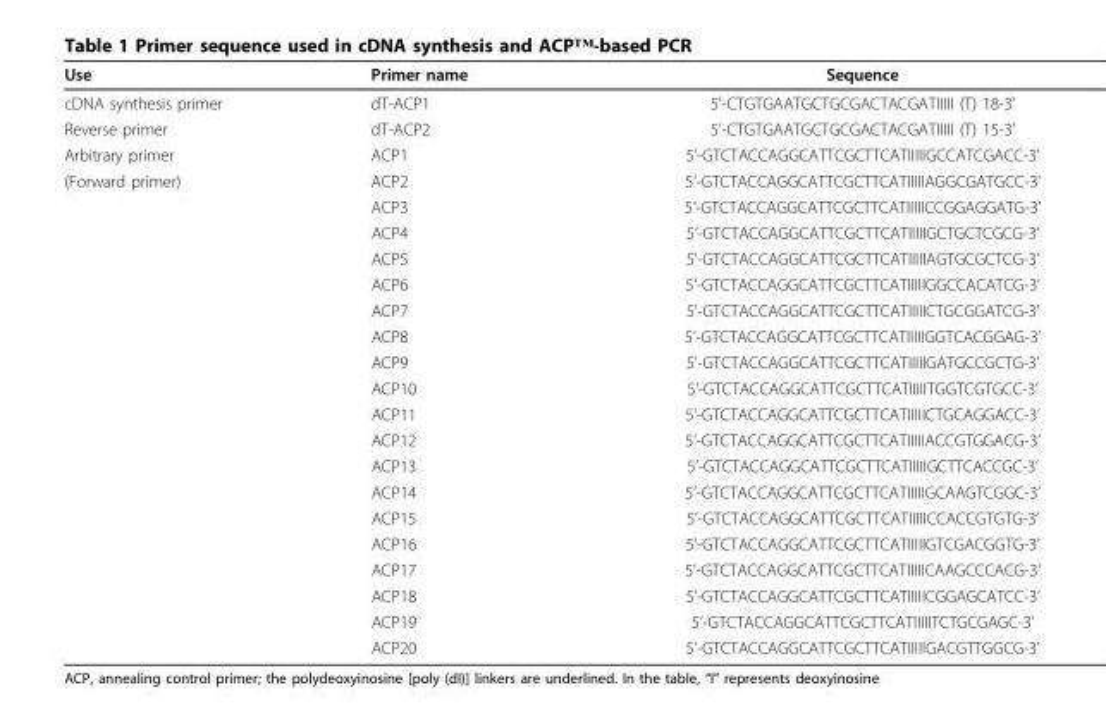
<table><thead><tr><td>Use</td><td>Primer name</td><td>Sequence</td></tr></thead><tbody><tr><td>cDNA synthesis primer</td><td>dT-ACP1</td><td>5’-CTGTGAATGCTGCGACTACGATIIIII (T) 18-3’</td></tr><tr><td>Reverse primer</td><td>dT-ACP2</td><td>5’-CTGTGAATGCTGCGACTACGATIIIII (T) 15-3’</td></tr><tr><td>Arbitrary primer</td><td>ACP1</td><td>5’-GTCTACCAGGCATTCGCTTCATIIIIIGCCATCGACC-3’</td></tr><tr><td rowspan="19">(Forward primer)</td><td>ACP2</td><td>5’-GTCTACCAGGCATTCGCTTCATIIIIIAGGCGATGCC-3’</td></tr><tr><td>ACP3</td><td>5’-GTCTACCAGGCATTCGCTTCATIIIIICCGGAGGATG-3’</td></tr><tr><td>ACP4</td><td>5’-GTCTACCAGGCATTCGCTTCATIIIIIGCTGCTCGCG-3’</td></tr><tr><td>ACP5</td><td>5’-GTCTACCAGGCATTCGCTTCATIIIIIAGTGCGCTCG-3’</td></tr><tr><td>ACP6</td><td>5’-GTCTACCAGGCATTCGCTTCATIIIIIGGCCACATCG-3’</td></tr><tr><td>ACP7</td><td>5’-GTCTACCAGGCATTCGCTTCATIIIIICTGCGGATCG-3’</td></tr><tr><td>ACP8</td><td>5’-GTCTACCAGGCATTCGCTTCATIIIIIGGTCACGGAG-3’</td></tr><tr><td>ACP9</td><td>5’-GTCTACCAGGCATTCGCTTCATIIIIIGATGCCGCTG-3’</td></tr><tr><td>ACP10</td><td>5’-GTCTACCAGGCATTCGCTTCATIIIIITGGTCGTGCC-3’</td></tr><tr><td>ACP11</td><td>5’-GTCTACCAGGCATTCGCTTCATIIIIICTGCAGGACC-3’</td></tr><tr><td>ACP12</td><td>5’-GTCTACCAGGCATTCGCTTCATIIIIIACCGTGGACG-3’</td></tr><tr><td>ACP13</td><td>5’-GTCTACCAGGCATTCGCTTCATIIIIIGCTTCACCGC-3’</td></tr><tr><td>ACP14</td><td>5’-GTCTACCAGGCATTCGCTTCATIIIIIGCAAGTCGGC-3’</td></tr><tr><td>ACP15</td><td>5’-GTCTACCAGGCATTCGCTTCATIIIIICCACCGTGTG-3’</td></tr><tr><td>ACP16</td><td>5’-GTCTACCAGGCATTCGCTTCATIIIIIGTCGACGGTG-3’</td></tr><tr><td>ACP17</td><td>5’-GTCTACCAGGCATTCGCTTCATIIIIICAAGCCCACG-3’</td></tr><tr><td>ACP18</td><td>5’-GTCTACCAGGCATTCGCTTCATIIIIICGGAGCATCC-3’</td></tr><tr><td>ACP19</td><td>5’-GTCTACCAGGCATTCGCTTCATIIIIITCTGCGAGC-3’</td></tr><tr><td>ACP20</td><td>5’-GTCTACCAGGCATTCGCTTCATIIIIIGACGTTGGCG-3’</td></tr></tbody></table>